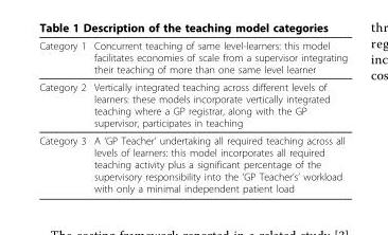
<table><thead><tr><td>Category 1</td><td>Concurrent teaching of same level-learners: this model facilitates economies of scale from a supervisor integrating their teaching of more than one same level learner</td></tr></thead><tbody><tr><td>Category 2</td><td>Vertically integrated teaching across different levels of learners: these models incorporate vertically integrated teaching where a GP registrar, along with the GP supervisor, participates in teaching</td></tr><tr><td>Category 3</td><td>A ‘GP Teacher’ undertaking all required teaching across all levels of learners: this model incorporates all required teaching activity plus a significant percentage of the supervisory responsibility into the ‘GP Teacher’s’ workload with only a minimal independent patient load</td></tr></tbody></table>